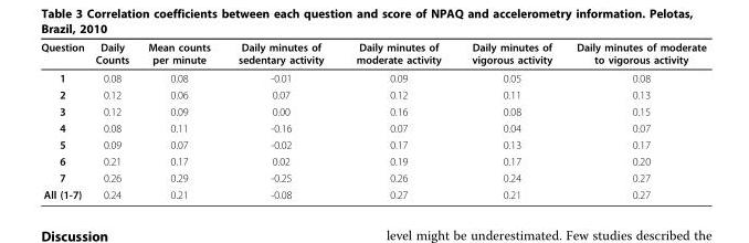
<table><thead><tr><td>Question</td><td>Daily Counts</td><td>Mean counts per minute</td><td>Daily minutes of sedentary activity</td><td>Daily minutes of moderate activity</td><td>Daily minutes of vigorous activity</td><td>Daily minutes of moderate to vigorous activity</td></tr></thead><tbody><tr><td>1</td><td>0.08</td><td>0.08</td><td>-0.01</td><td>0.09</td><td>0.05</td><td>0.08</td></tr><tr><td>2</td><td>0.12</td><td>0.06</td><td>0.07</td><td>0.12</td><td>0.11</td><td>0.13</td></tr><tr><td>3</td><td>0.12</td><td>0.09</td><td>0.00</td><td>0.16</td><td>0.08</td><td>0.15</td></tr><tr><td>4</td><td>0.08</td><td>0.11</td><td>-0.16</td><td>0.07</td><td>0.04</td><td>0.07</td></tr><tr><td>5</td><td>0.09</td><td>0.07</td><td>-0.02</td><td>0.17</td><td>0.13</td><td>0.17</td></tr><tr><td>6</td><td>0.21</td><td>0.17</td><td>0.02</td><td>0.19</td><td>0.17</td><td>0.20</td></tr><tr><td>7</td><td>0.26</td><td>0.29</td><td>-0.25</td><td>0.26</td><td>0.24</td><td>0.27</td></tr><tr><td>All (1-7)</td><td>0.24</td><td>0.21</td><td>-0.08</td><td>0.27</td><td>0.21</td><td>0.27</td></tr></tbody></table>